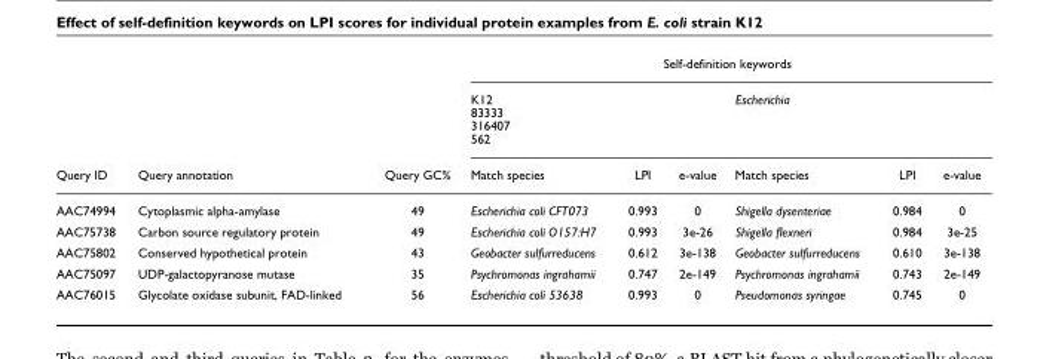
<table><thead><tr><td rowspan="3">Query ID</td><td rowspan="3">Query annotation</td><td rowspan="3">Query GC%</td><td colspan="6">Self-definition keywords</td></tr><tr><td rowspan="2">K12 83333 316407 562 Match species</td><td rowspan="2">LPI</td><td rowspan="2">e-value</td><td rowspan="2">Escherichia Match species</td><td rowspan="2">LPI</td><td rowspan="2">e-value</td></tr><tr></tr></thead><tbody><tr><td>AAC74994</td><td>Cytoplasmic alpha-amylase</td><td>49</td><td>Escherichia coli CFT073</td><td>0.993</td><td>0</td><td>Shigella dysenteriae</td><td>0.984</td><td>0</td></tr><tr><td>AAC75738</td><td>Carbon source regulatory protein</td><td>49</td><td>Escherichia coli O157:H7</td><td>0.993</td><td>3e-26</td><td>Shigella flexneri</td><td>0.984</td><td>3e-25</td></tr><tr><td>AAC75802</td><td>Conserved hypothetical protein</td><td>43</td><td>Geobacter sulfurreducens</td><td>0.612</td><td>3e-138</td><td>Geobacter sulfurreducens</td><td>0.610</td><td>3e-138</td></tr><tr><td>AAC75097</td><td>UDP-galactopyranose mutase</td><td>35</td><td>Psychromonas ingrahamii</td><td>0.747</td><td>2e-149</td><td>Psychromonas ingrahamii</td><td>0.743</td><td>2e-149</td></tr><tr><td>AAC76015</td><td>Glycolate oxidase subunit, FAD-linked</td><td>56</td><td>Escherichia coli 53638</td><td>0.993</td><td>0</td><td>Pseudomonas syringae</td><td>0.745</td><td>0</td></tr></tbody></table>